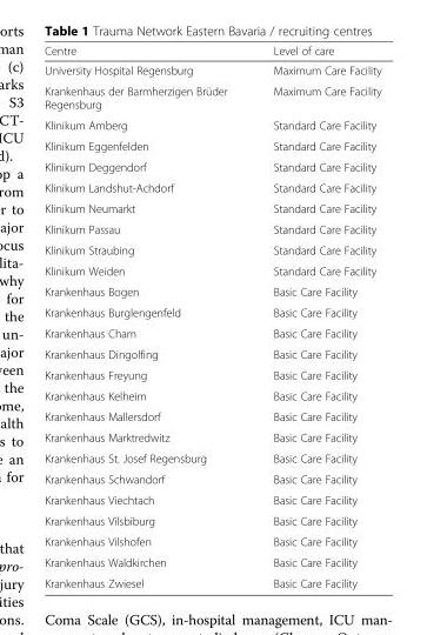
<table><thead><tr><td>Centre</td><td>Level of care</td></tr></thead><tbody><tr><td>University Hospital Regensburg</td><td>Maximum Care Facility</td></tr><tr><td>Krankenhaus der Barmherzigen Brüder Regensburg</td><td>Maximum Care Facility</td></tr><tr><td>Klinikum Amberg</td><td>Standard Care Facility</td></tr><tr><td>Klinikum Eggenfelden</td><td>Standard Care Facility</td></tr><tr><td>Klinikum Deggendorf</td><td>Standard Care Facility</td></tr><tr><td>Klinikum Landshut-Achdorf</td><td>Standard Care Facility</td></tr><tr><td>Klinikum Neumarkt</td><td>Standard Care Facility</td></tr><tr><td>Klinikum Passau</td><td>Standard Care Facility</td></tr><tr><td>Klinikum Straubing</td><td>Standard Care Facility</td></tr><tr><td>Klinikum Weiden</td><td>Standard Care Facility</td></tr><tr><td>Krankenhaus Bogen</td><td>Basic Care Facility</td></tr><tr><td>Krankenhaus Burglengenfeld</td><td>Basic Care Facility</td></tr><tr><td>Krankenhaus Cham</td><td>Basic Care Facility</td></tr><tr><td>Krankenhaus Dingolfing</td><td>Basic Care Facility</td></tr><tr><td>Krankenhaus Freyung</td><td>Basic Care Facility</td></tr><tr><td>Krankenhaus Kelheim</td><td>Basic Care Facility</td></tr><tr><td>Krankenhaus Mallersdorf</td><td>Basic Care Facility</td></tr><tr><td>Krankenhaus Marktredwitz</td><td>Basic Care Facility</td></tr><tr><td>Krankenhaus St. Josef Regensburg</td><td>Basic Care Facility</td></tr><tr><td>Krankenhaus Schwandorf</td><td>Basic Care Facility</td></tr><tr><td>Krankenhaus Viechtach</td><td>Basic Care Facility</td></tr><tr><td>Krankenhaus Vilsbiburg</td><td>Basic Care Facility</td></tr><tr><td>Krankenhaus Vilshofen</td><td>Basic Care Facility</td></tr><tr><td>Krankenhaus Waldkirchen</td><td>Basic Care Facility</td></tr><tr><td>Krankenhaus Zwiesel</td><td>Basic Care Facility</td></tr></tbody></table>